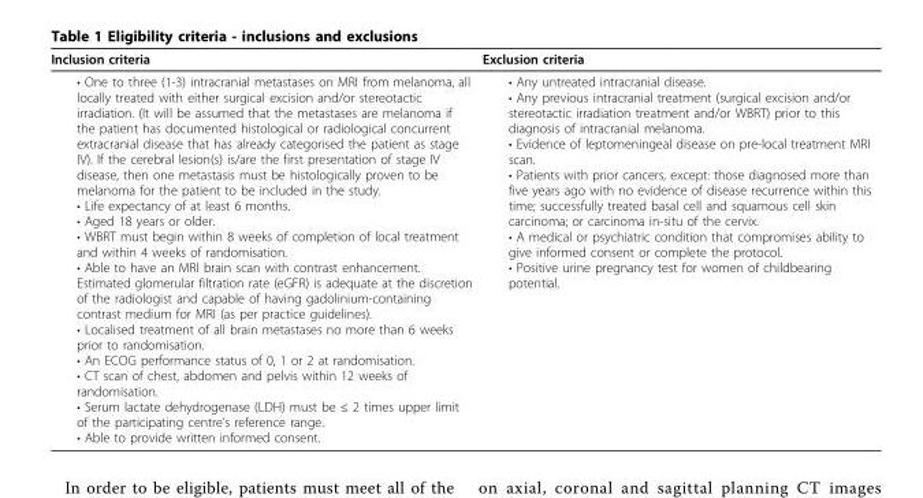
<table><thead><tr><td>Inclusion criteria</td><td>Exclusion criteria</td></tr></thead><tbody><tr><td>• One to three (1-3) intracranial metastases on MRI from melanoma, all locally treated with either surgical excision and/or stereotactic irradiation. (It will be assumed that the metastases are melanoma if the patient has documented histological or radiological concurrent extracranial disease that has already categorised the patient as stage IV). If the cerebral lesion(s) is/are the first presentation of stage IV disease, then one metastasis must be histologically proven to be melanoma for the patient to be included in the study. • Life expectancy of at least 6 months. • Aged 18 years or older. • WBRT must begin within 8 weeks of completion of local treatment and within 4 weeks of randomisation. • Able to have an MRI brain scan with contrast enhancement. Estimated glomerular filtration rate (eGFR) is adequate at the discretion of the radiologist and capable of having gadolinium-containing contrast medium for MRI (as per practice guidelines). • Localised treatment of all brain metastases no more than 6 weeks prior to randomisation. • An ECOG performance status of 0, 1 or 2 at randomisation. • CT scan of chest, abdomen and pelvis within 12 weeks of randomisation. • Serum lactate dehydrogenase (LDH) must be ≤ 2 times upper limit of the participating centre’s reference range. • Able to provide written informed consent.</td><td>• Any untreated intracranial disease. • Any previous intracranial treatment (surgical excision and/or stereotactic irradiation treatment and/or WBRT) prior to this diagnosis of intracranial melanoma. • Evidence of leptomeningeal disease on pre-local treatment MRI scan. • Patients with prior cancers, except: those diagnosed more than five years ago with no evidence of disease recurrence within this time; successfully treated basal cell and squamous cell skin carcinoma; or carcinoma in-situ of the cervix. • A medical or psychiatric condition that compromises ability to give informed consent or complete the protocol. • Positive urine pregnancy test for women of childbearing potential.</td></tr></tbody></table>